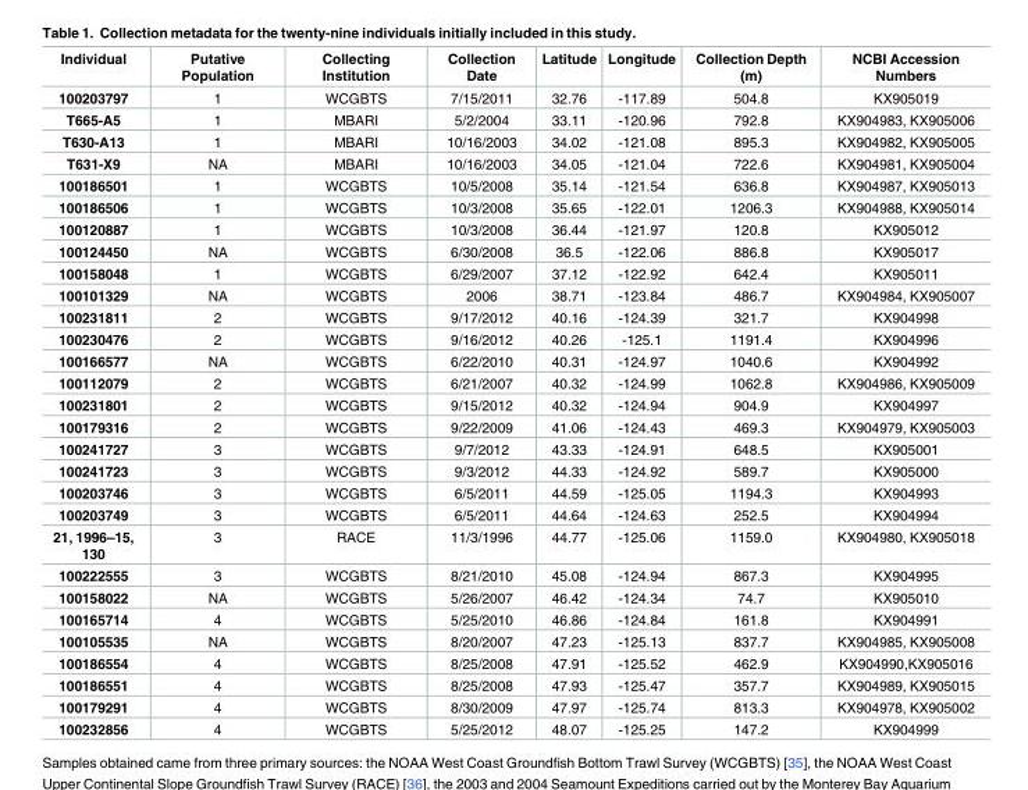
<table><thead><tr><td>Individual</td><td>Putative Population</td><td>Collecting Institution</td><td>Collection Date</td><td>Latitude</td><td>Longitude</td><td>Collection Depth (m)</td><td>NCBI Accession Numbers</td></tr></thead><tbody><tr><td>100203797</td><td>1</td><td>WCGBTS</td><td>7/15/2011</td><td>32.76</td><td>-117.89</td><td>504.8</td><td>KX905019</td></tr><tr><td>T665-A5</td><td>1</td><td>MBARI</td><td>5/2/2004</td><td>33.11</td><td>-120.96</td><td>792.8</td><td>KX904983, KX905006</td></tr><tr><td>T630-A13</td><td>1</td><td>MBARI</td><td>10/16/2003</td><td>34.02</td><td>-121.08</td><td>895.3</td><td>KX904982, KX905005</td></tr><tr><td>T631-X9</td><td>NA</td><td>MBARI</td><td>10/16/2003</td><td>34.05</td><td>-121.04</td><td>722.6</td><td>KX904981, KX905004</td></tr><tr><td>100186501</td><td>1</td><td>WCGBTS</td><td>10/5/2008</td><td>35.14</td><td>-121.54</td><td>636.8</td><td>KX904987, KX905013</td></tr><tr><td>100186506</td><td>1</td><td>WCGBTS</td><td>10/3/2008</td><td>35.65</td><td>-122.01</td><td>1206.3</td><td>KX904988, KX905014</td></tr><tr><td>100120887</td><td>1</td><td>WCGBTS</td><td>10/3/2008</td><td>36.44</td><td>-121.97</td><td>120.8</td><td>KX905012</td></tr><tr><td>100124450</td><td>NA</td><td>WCGBTS</td><td>6/30/2008</td><td>36.5</td><td>-122.06</td><td>886.8</td><td>KX905017</td></tr><tr><td>100158048</td><td>1</td><td>WCGBTS</td><td>6/29/2007</td><td>37.12</td><td>-122.92</td><td>642.4</td><td>KX905011</td></tr><tr><td>100101329</td><td>NA</td><td>WCGBTS</td><td>2006</td><td>38.71</td><td>-123.84</td><td>486.7</td><td>KX904984, KX905007</td></tr><tr><td>100231811</td><td>2</td><td>WCGBTS</td><td>9/17/2012</td><td>40.16</td><td>-124.39</td><td>321.7</td><td>KX904998</td></tr><tr><td>100230476</td><td>2</td><td>WCGBTS</td><td>9/16/2012</td><td>40.26</td><td>-125.1</td><td>1191.4</td><td>KX904996</td></tr><tr><td>100166577</td><td>NA</td><td>WCGBTS</td><td>6/22/2010</td><td>40.31</td><td>-124.97</td><td>1040.6</td><td>KX904992</td></tr><tr><td>100112079</td><td>2</td><td>WCGBTS</td><td>6/21/2007</td><td>40.32</td><td>-124.99</td><td>1062.8</td><td>KX904986, KX905009</td></tr><tr><td>100231801</td><td>2</td><td>WCGBTS</td><td>9/15/2012</td><td>40.32</td><td>-124.94</td><td>904.9</td><td>KX904997</td></tr><tr><td>100179316</td><td>2</td><td>WCGBTS</td><td>9/22/2009</td><td>41.06</td><td>-124.43</td><td>469.3</td><td>KX904979, KX905003</td></tr><tr><td>100241727</td><td>3</td><td>WCGBTS</td><td>9/7/2012</td><td>43.33</td><td>-124.91</td><td>648.5</td><td>KX905001</td></tr><tr><td>100241723</td><td>3</td><td>WCGBTS</td><td>9/3/2012</td><td>44.33</td><td>-124.92</td><td>589.7</td><td>KX905000</td></tr><tr><td>100203746</td><td>3</td><td>WCGBTS</td><td>6/5/2011</td><td>44.59</td><td>-125.05</td><td>1194.3</td><td>KX904993</td></tr><tr><td>100203749</td><td>3</td><td>WCGBTS</td><td>6/5/2011</td><td>44.64</td><td>-124.63</td><td>252.5</td><td>KX904994</td></tr><tr><td>21, 1996–15, 130</td><td>3</td><td>RACE</td><td>11/3/1996</td><td>44.77</td><td>-125.06</td><td>1159.0</td><td>KX904980, KX905018</td></tr><tr><td>100222555</td><td>3</td><td>WCGBTS</td><td>8/21/2010</td><td>45.08</td><td>-124.94</td><td>867.3</td><td>KX904995</td></tr><tr><td>100158022</td><td>NA</td><td>WCGBTS</td><td>5/26/2007</td><td>46.42</td><td>-124.34</td><td>74.7</td><td>KX905010</td></tr><tr><td>100165714</td><td>4</td><td>WCGBTS</td><td>5/25/2010</td><td>46.86</td><td>-124.84</td><td>161.8</td><td>KX904991</td></tr><tr><td>100105535</td><td>NA</td><td>WCGBTS</td><td>8/20/2007</td><td>47.23</td><td>-125.13</td><td>837.7</td><td>KX904985, KX905008</td></tr><tr><td>100186554</td><td>4</td><td>WCGBTS</td><td>8/25/2008</td><td>47.91</td><td>-125.52</td><td>462.9</td><td>KX904990,KX905016</td></tr><tr><td>100186551</td><td>4</td><td>WCGBTS</td><td>8/25/2008</td><td>47.93</td><td>-125.47</td><td>357.7</td><td>KX904989, KX905015</td></tr><tr><td>100179291</td><td>4</td><td>WCGBTS</td><td>8/30/2009</td><td>47.97</td><td>-125.74</td><td>813.3</td><td>KX904978, KX905002</td></tr><tr><td>100232856</td><td>4</td><td>WCGBTS</td><td>5/25/2012</td><td>48.07</td><td>-125.25</td><td>147.2</td><td>KX904999</td></tr></tbody></table>